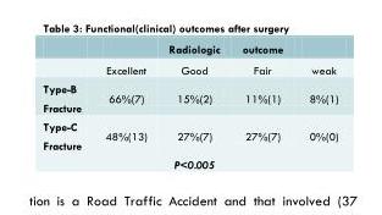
<table><thead><tr><td></td><td></td><td>Radiologic</td><td>outcome</td><td></td></tr></thead><tbody><tr><td></td><td>Excellent</td><td>Good</td><td>Fair</td><td>weak</td></tr><tr><td>Type-B Fracture</td><td>66%(7)</td><td>15%(2)</td><td>11%(1)</td><td>8%(1)</td></tr><tr><td rowspan="2">Type-C Fracture</td><td>48%(13)</td><td>27%(7)</td><td>27%(7)</td><td>0%(0)</td></tr><tr><td></td><td>P&lt;0.005</td><td></td><td></td></tr></tbody></table>